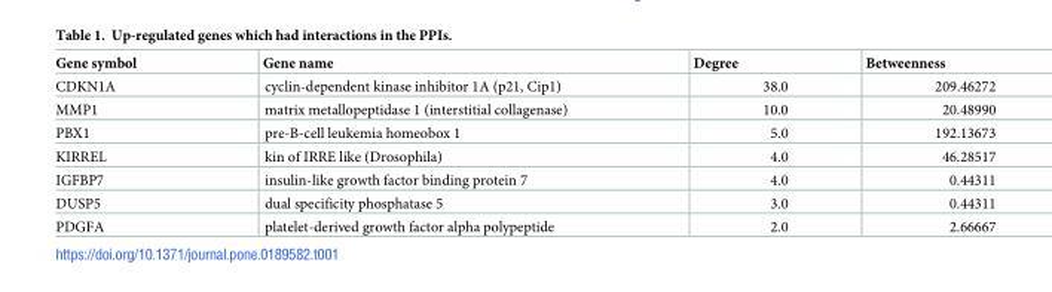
<table><thead><tr><td>Gene symbol</td><td>Gene name</td><td>Degree</td><td>Betweenness</td></tr></thead><tbody><tr><td>CDKN1A</td><td>cyclin-dependent kinase inhibitor 1A (p21, Cip1)</td><td>38.0</td><td>209.46272</td></tr><tr><td>MMP1</td><td>matrix metallopeptidase 1 (interstitial collagenase)</td><td>10.0</td><td>20.48990</td></tr><tr><td>PBX1</td><td>pre-B-cell leukemia homeobox 1</td><td>5.0</td><td>192.13673</td></tr><tr><td>KIRREL</td><td>kin of IRRE like (Drosophila)</td><td>4.0</td><td>46.28517</td></tr><tr><td>IGFBP7</td><td>insulin-like growth factor binding protein 7</td><td>4.0</td><td>0.44311</td></tr><tr><td>DUSP5</td><td>dual specificity phosphatase 5</td><td>3.0</td><td>0.44311</td></tr><tr><td>PDGFA</td><td>platelet-derived growth factor alpha polypeptide</td><td>2.0</td><td>2.66667</td></tr></tbody></table>